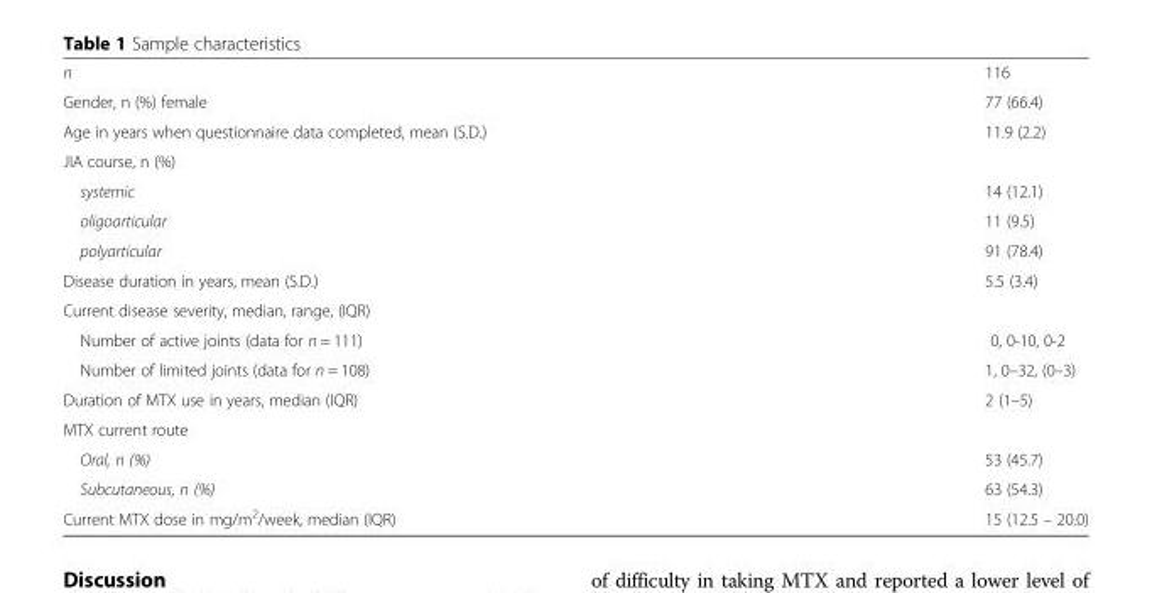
<table><tbody><tr><td>n</td><td>116</td></tr><tr><td>Gender, n (%) female</td><td>77 (66.4)</td></tr><tr><td>Age in years when questionnaire data completed, mean (S.D.)</td><td>11.9 (2.2)</td></tr><tr><td colspan="2">JIA course, n (%)</td></tr><tr><td>systemic</td><td>14 (12.1)</td></tr><tr><td>oligoarticular</td><td>11 (9.5)</td></tr><tr><td>polyarticular</td><td>91 (78.4)</td></tr><tr><td>Disease duration in years, mean (S.D.)</td><td>5.5 (3.4)</td></tr><tr><td colspan="2">Current disease severity, median, range, (IQR)</td></tr><tr><td>Number of active joints (data for n = 111)</td><td>0, 0-10, 0-2</td></tr><tr><td>Number of limited joints (data for n = 108)</td><td>1, 0–32, (0–3)</td></tr><tr><td>Duration of MTX use in years, median (IQR)</td><td>2 (1–5)</td></tr><tr><td colspan="2">MTX current route</td></tr><tr><td>Oral, n (%)</td><td>53 (45.7)</td></tr><tr><td>Subcutaneous, n (%)</td><td>63 (54.3)</td></tr><tr><td>Current MTX dose in mg/m<sup>2</sup>/week, median (IQR)</td><td>15 (12.5 – 20.0)</td></tr></tbody></table>